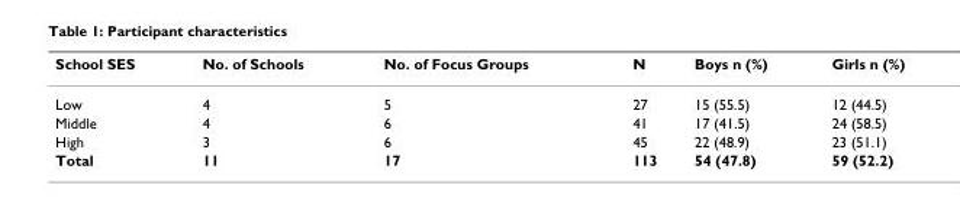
<table><thead><tr><td>School SES</td><td>No. of Schools</td><td>No. of Focus Groups</td><td>N</td><td>Boys n (%)</td><td>Girls n (%)</td></tr></thead><tbody><tr><td>Low</td><td>4</td><td>5</td><td>27</td><td>15 (55.5)</td><td>12 (44.5)</td></tr><tr><td>Middle</td><td>4</td><td>6</td><td>41</td><td>17 (41.5)</td><td>24 (58.5)</td></tr><tr><td>High</td><td>3</td><td>6</td><td>45</td><td>22 (48.9)</td><td>23 (51.1)</td></tr><tr><td>Total</td><td>11</td><td>17</td><td>113</td><td>54 (47.8)</td><td>59 (52.2)</td></tr></tbody></table>